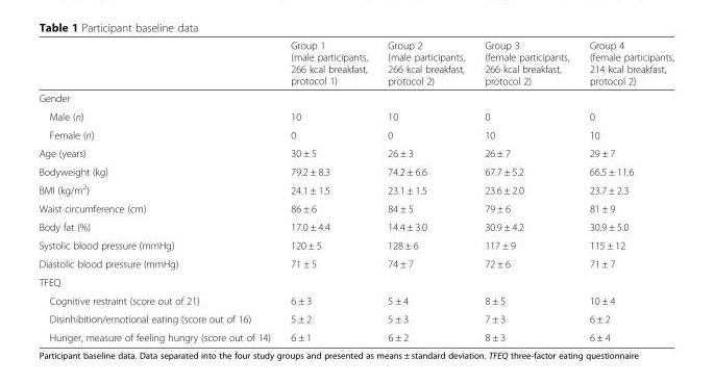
<table><thead><tr><td></td><td>Group 1 (male participants, 266 kcal breakfast, protocol 1)</td><td>Group 2 (male participants, 266 kcal breakfast, protocol 2)</td><td>Group 3 (female participants, 266 kcal breakfast, protocol 2)</td><td>Group 4 (female participants, 214 kcal breakfast, protocol 2)</td></tr></thead><tbody><tr><td colspan="5">Gender</td></tr><tr><td>Male (n)</td><td>10</td><td>10</td><td>0</td><td>0</td></tr><tr><td>Female (n)</td><td>0</td><td>0</td><td>10</td><td>10</td></tr><tr><td>Age (years)</td><td>30 ± 5</td><td>26 ± 3</td><td>26 ± 7</td><td>29 ± 7</td></tr><tr><td>Bodyweight (kg)</td><td>79.2 ± 8.3</td><td>74.2 ± 6.6</td><td>67.7 ± 5.2</td><td>66.5 ± 11.6</td></tr><tr><td>BMI (kg/m<sup>2</sup>)</td><td>24.1 ± 1.5</td><td>23.1 ± 1.5</td><td>23.6 ± 2.0</td><td>23.7 ± 2.3</td></tr><tr><td>Waist circumference (cm)</td><td>86 ± 6</td><td>84 ± 5</td><td>79 ± 6</td><td>81 ± 9</td></tr><tr><td>Body fat (%)</td><td>17.0 ± 4.4</td><td>14.4 ± 3.0</td><td>30.9 ± 4.2</td><td>30.9 ± 5.0</td></tr><tr><td>Systolic blood pressure (mmHg)</td><td>120 ± 5</td><td>128 ± 6</td><td>117 ± 9</td><td>115 ± 12</td></tr><tr><td>Diastolic blood pressure (mmHg)</td><td>71 ± 5</td><td>74 ± 7</td><td>72 ± 6</td><td>71 ± 7</td></tr><tr><td colspan="5">TFEQ</td></tr><tr><td>Cognitive restraint (score out of 21)</td><td>6 ± 3</td><td>5 ± 4</td><td>8 ± 5</td><td>10 ± 4</td></tr><tr><td>Disinhibition/emotional eating (score out of 16)</td><td>5 ± 2</td><td>5 ± 3</td><td>7 ± 3</td><td>6 ± 2</td></tr><tr><td>Hunger, measure of feeling hungry (score out of 14)</td><td>6 ± 1</td><td>6 ± 2</td><td>8 ± 3</td><td>6 ± 4</td></tr></tbody></table>